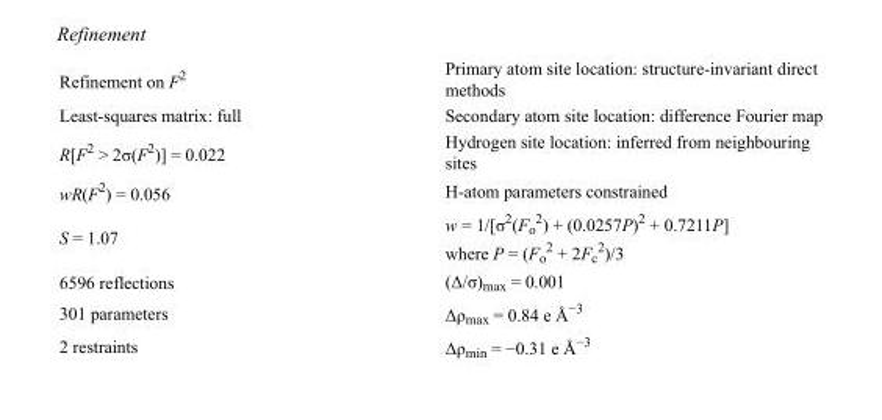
<table><tbody><tr><td>Refinement on F<sup>2</sup></td><td>Primary atom site location: structure-invariant direct methods</td></tr><tr><td>Least-squares matrix: full</td><td>Secondary atom site location: difference Fourier map</td></tr><tr><td>R[F<sup>2</sup> &gt; 2σ(F<sup>2</sup>)] = 0.022</td><td>Hydrogen site location: inferred from neighbouring sites</td></tr><tr><td>wR(F<sup>2</sup>) = 0.056</td><td>H-atom parameters constrained</td></tr><tr><td>S = 1.07</td><td>w = 1/[σ<sup>2</sup>(F<sub>o</sub> <sup>2</sup>) + (0.0257P)<sup>2</sup> + 0.7211P] where P = (F<sub>o</sub> <sup>2</sup> + 2F<sub>c</sub> <sup>2</sup>)/3</td></tr><tr><td>6596 reflections</td><td>(Δ/σ)<sub>max</sub> = 0.001</td></tr><tr><td>301 parameters</td><td>Δρ<sub>max</sub> = 0.84 e Å<sup>−3</sup></td></tr><tr><td>2 restraints</td><td>Δρ<sub>min</sub> = −0.31 e Å<sup>−3</sup></td></tr></tbody></table>